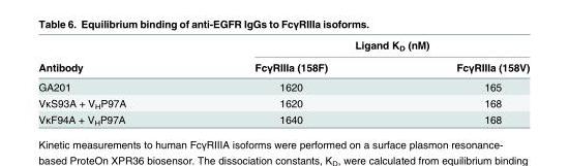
<table><thead><tr><td rowspan="2">Antibody</td><td colspan="2">Ligand K<sub>D</sub> (nM)</td></tr><tr><td>FcγRIIIa (158F)</td><td>FcγRIIIa (158V)</td></tr></thead><tbody><tr><td>GA201</td><td>1620</td><td>165</td></tr><tr><td>VκS93A + V<sub>H</sub>P97A</td><td>1620</td><td>168</td></tr><tr><td>VκF94A + V<sub>H</sub>P97A</td><td>1640</td><td>168</td></tr></tbody></table>